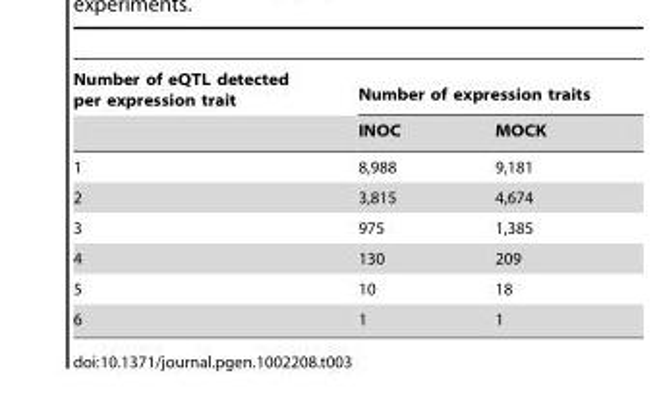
<table><thead><tr><td rowspan="2">Number of eQTL detected per expression trait</td><td colspan="2">Number of expression traits</td></tr><tr><td>INOC</td><td>MOCK</td></tr></thead><tbody><tr><td>1</td><td>8,988</td><td>9,181</td></tr><tr><td>2</td><td>3,815</td><td>4,674</td></tr><tr><td>3</td><td>975</td><td>1,385</td></tr><tr><td>4</td><td>130</td><td>209</td></tr><tr><td>5</td><td>10</td><td>18</td></tr><tr><td>6</td><td>1</td><td>1</td></tr></tbody></table>